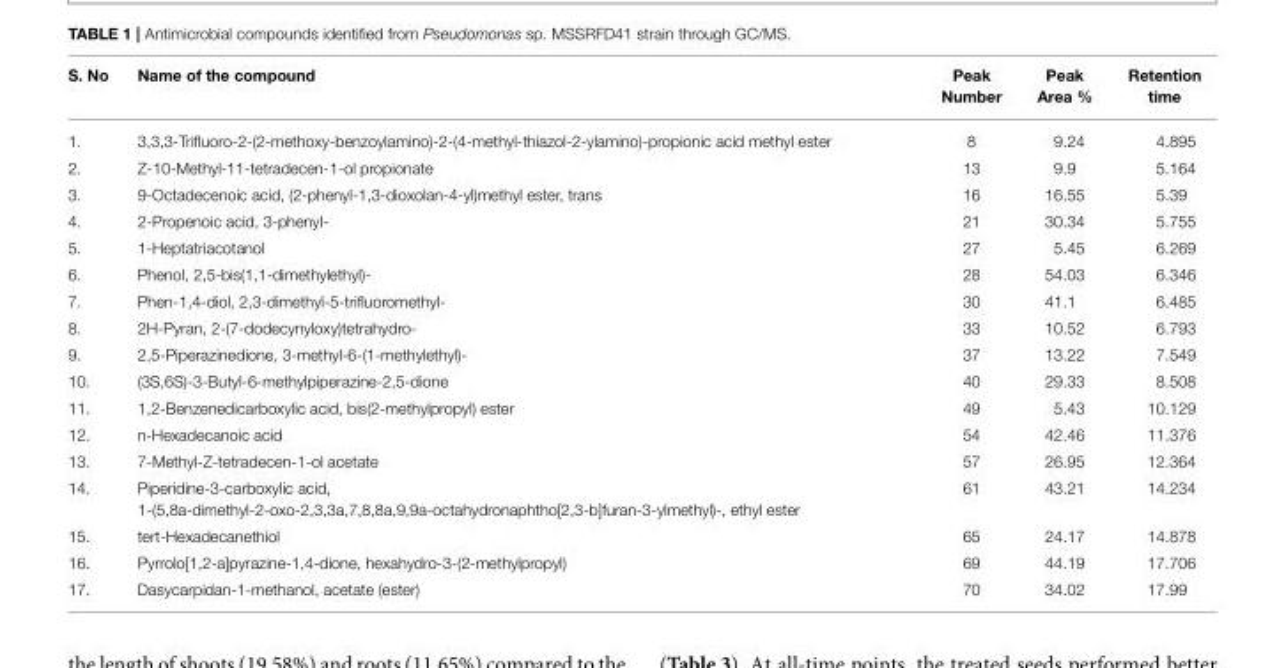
<table><thead><tr><td>S. No</td><td>Name of the compound</td><td>Peak Number</td><td>Peak Area %</td><td>Retention time</td></tr></thead><tbody><tr><td>1.</td><td>3,3,3-Trifluoro-2-(2-methoxy-benzoylamino)-2-(4-methyl-thiazol-2-ylamino)-propionic acid methyl ester</td><td>8</td><td>9.24</td><td>4.895</td></tr><tr><td>2.</td><td>Z-10-Methyl-11-tetradecen-1-ol propionate</td><td>13</td><td>9.9</td><td>5.164</td></tr><tr><td>3.</td><td>9-Octadecenoic acid, (2-phenyl-1,3-dioxolan-4-yl)methyl ester, trans</td><td>16</td><td>16.55</td><td>5.39</td></tr><tr><td>4.</td><td>2-Propenoic acid, 3-phenyl-</td><td>21</td><td>30.34</td><td>5.755</td></tr><tr><td>5.</td><td>1-Heptatriacotanol</td><td>27</td><td>5.45</td><td>6.269</td></tr><tr><td>6.</td><td>Phenol, 2,5-bis(1,1-dimethylethyl)-</td><td>28</td><td>54.03</td><td>6.346</td></tr><tr><td>7.</td><td>Phen-1,4-diol, 2,3-dimethyl-5-trifluoromethyl-</td><td>30</td><td>41.1</td><td>6.485</td></tr><tr><td>8.</td><td>2H-Pyran, 2-(7-dodecynyloxy)tetrahydro-</td><td>33</td><td>10.52</td><td>6.793</td></tr><tr><td>9.</td><td>2,5-Piperazinedione, 3-methyl-6-(1-methylethyl)-</td><td>37</td><td>13.22</td><td>7.549</td></tr><tr><td>10.</td><td>(3S,6S)-3-Butyl-6-methylpiperazine-2,5-dione</td><td>40</td><td>29.33</td><td>8.508</td></tr><tr><td>11.</td><td>1,2-Benzenedicarboxylic acid, bis(2-methylpropyl) ester</td><td>49</td><td>5.43</td><td>10.129</td></tr><tr><td>12.</td><td>n-Hexadecanoic acid</td><td>54</td><td>42.46</td><td>11.376</td></tr><tr><td>13.</td><td>7-Methyl-Z-tetradecen-1-ol acetate</td><td>57</td><td>26.95</td><td>12.364</td></tr><tr><td>14.</td><td>Piperidine-3-carboxylic acid, 1-(5,8a-dimethyl-2-oxo-2,3,3a,7,8,8a,9,9a-octahydronaphtho[2,3-b]furan-3-ylmethyl)-, ethyl ester</td><td>61</td><td>43.21</td><td>14.234</td></tr><tr><td>15.</td><td>tert-Hexadecanethiol</td><td>65</td><td>24.17</td><td>14.878</td></tr><tr><td>16.</td><td>Pyrrolo[1,2-a]pyrazine-1,4-dione, hexahydro-3-(2-methylpropyl)</td><td>69</td><td>44.19</td><td>17.706</td></tr><tr><td>17.</td><td>Dasycarpidan-1-methanol, acetate (ester)</td><td>70</td><td>34.02</td><td>17.99</td></tr></tbody></table>